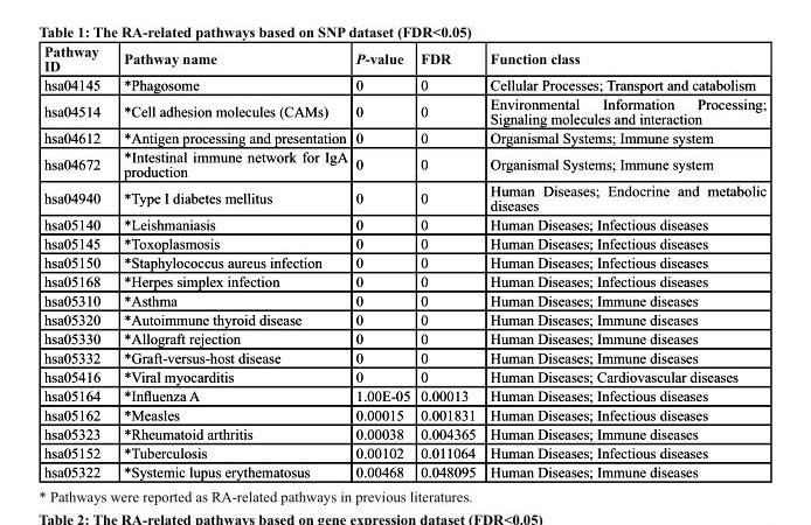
<table><thead><tr><td>Pathway ID</td><td>Pathway name</td><td>P-value</td><td>FDr</td><td>Function class</td></tr></thead><tbody><tr><td>hsa04145</td><td>*Phagosome</td><td>0</td><td>0</td><td>Cellular Processes; Transport and catabolism</td></tr><tr><td>hsa04514</td><td>*Cell adhesion molecules (CAMs)</td><td>0</td><td>0</td><td>Environmental Information Processing; Signaling molecules and interaction</td></tr><tr><td>hsa04612</td><td>*Antigen processing and presentation</td><td>0</td><td>0</td><td>Organismal Systems; Immune system</td></tr><tr><td>hsa04672</td><td>*Intestinal immune network for IgA production</td><td>0</td><td>0</td><td>Organismal Systems; Immune system</td></tr><tr><td>hsa04940</td><td>*Type I diabetes mellitus</td><td>0</td><td>0</td><td>Human Diseases; Endocrine and metabolic diseases</td></tr><tr><td>hsa05140</td><td>*Leishmaniasis</td><td>0</td><td>0</td><td>Human Diseases; Infectious diseases</td></tr><tr><td>hsa05145</td><td>*Toxoplasmosis</td><td>0</td><td>0</td><td>Human Diseases; Infectious diseases</td></tr><tr><td>hsa05150</td><td>*Staphylococcus aureus infection</td><td>0</td><td>0</td><td>Human Diseases; Infectious diseases</td></tr><tr><td>hsa05168</td><td>*Herpes simplex infection</td><td>0</td><td>0</td><td>Human Diseases; Infectious diseases</td></tr><tr><td>hsa05310</td><td>*Asthma</td><td>0</td><td>0</td><td>Human Diseases; Immune diseases</td></tr><tr><td>hsa05320</td><td>*Autoimmune thyroid disease</td><td>0</td><td>0</td><td>Human Diseases; Immune diseases</td></tr><tr><td>hsa05330</td><td>*Allograft rejection</td><td>0</td><td>0</td><td>Human Diseases; Immune diseases</td></tr><tr><td>hsa05332</td><td>*Graft-versus-host disease</td><td>0</td><td>0</td><td>Human Diseases; Immune diseases</td></tr><tr><td>hsa05416</td><td>*Viral myocarditis</td><td>0</td><td>0</td><td>Human Diseases; Cardiovascular diseases</td></tr><tr><td>hsa05164</td><td>*Influenza A</td><td>1.00E-05</td><td>0.00013</td><td>Human Diseases; Infectious diseases</td></tr><tr><td>hsa05162</td><td>*Measles</td><td>0.00015</td><td>0.001831</td><td>Human Diseases; Infectious diseases</td></tr><tr><td>hsa05323</td><td>*Rheumatoid arthritis</td><td>0.00038</td><td>0.004365</td><td>Human Diseases; Immune diseases</td></tr><tr><td>hsa05152</td><td>*Tuberculosis</td><td>0.00102</td><td>0.011064</td><td>Human Diseases; Infectious diseases</td></tr><tr><td>hsa05322</td><td>*Systemic lupus erythematosus</td><td>0.00468</td><td>0.048095</td><td>Human Diseases; Immune diseases</td></tr></tbody></table>